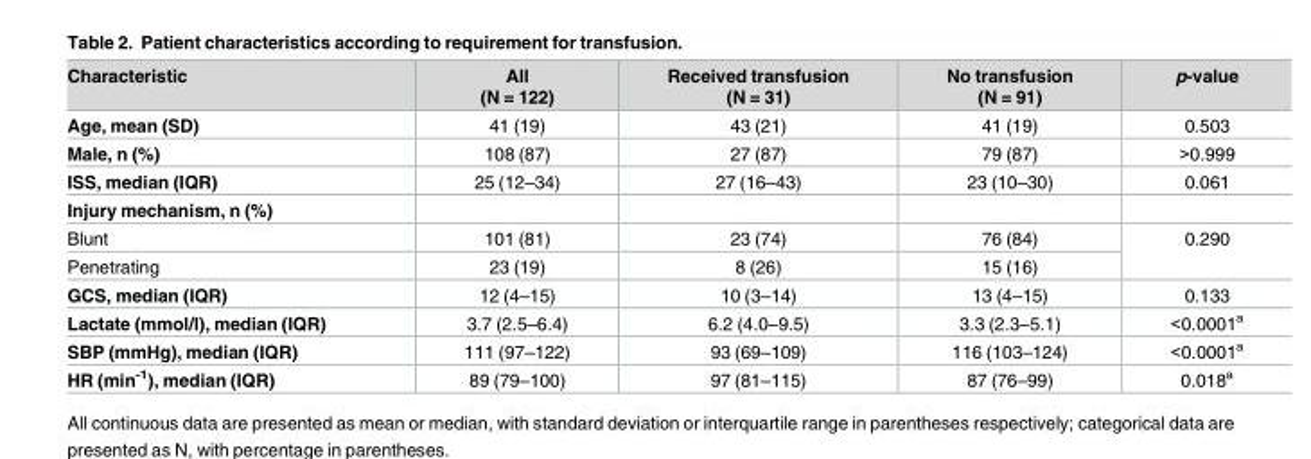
<table><thead><tr><td>Characteristic</td><td>All (N = 122)</td><td>Received transfusion (N = 31)</td><td>No transfusion (N = 91)</td><td>p-value</td></tr></thead><tbody><tr><td>Age, mean (SD)</td><td>41 (19)</td><td>43 (21)</td><td>41 (19)</td><td>0.503</td></tr><tr><td>Male, n (%)</td><td>108 (87)</td><td>27 (87)</td><td>79 (87)</td><td>&gt;0.999</td></tr><tr><td>ISS, median (IQR)</td><td>25 (12–34)</td><td>27 (16–43)</td><td>23 (10–30)</td><td>0.061</td></tr><tr><td colspan="5">Injury mechanism, n (%)</td></tr><tr><td>Blunt</td><td>101 (81)</td><td>23 (74)</td><td>76 (84)</td><td rowspan="2">0.290</td></tr><tr><td>Penetrating</td><td>23 (19)</td><td>8 (26)</td><td>15 (16)</td></tr><tr><td>GCS, median (IQR)</td><td>12 (4–15)</td><td>10 (3–14)</td><td>13 (4–15)</td><td>0.133</td></tr><tr><td>Lactate (mmol/l), median (IQR)</td><td>3.7 (2.5–6.4)</td><td>6.2 (4.0–9.5)</td><td>3.3 (2.3–5.1)</td><td>&lt;0.0001<sup>a</sup></td></tr><tr><td>SBP (mmHg), median (IQR)</td><td>111 (97–122)</td><td>93 (69–109)</td><td>116 (103–124)</td><td>&lt;0.0001<sup>a</sup></td></tr><tr><td>HR (min<sup>-1</sup>), median (IQR)</td><td>89 (79–100)</td><td>97 (81–115)</td><td>87 (76–99)</td><td>0.018<sup>a</sup></td></tr></tbody></table>